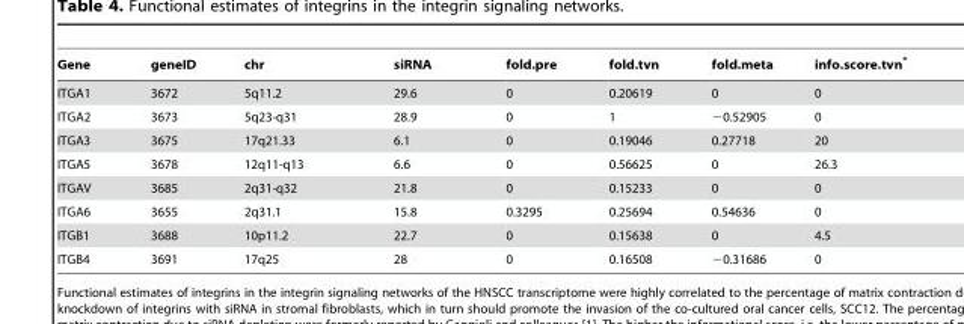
<table><thead><tr><td>Gene</td><td>geneID</td><td>chr</td><td>siRNA</td><td>fold.pre</td><td>fold.tvn</td><td>fold.meta</td><td>info.score.tvn*</td></tr></thead><tbody><tr><td>ITGA1</td><td>3672</td><td>5q11.2</td><td>29.6</td><td>0</td><td>0.20619</td><td>0</td><td>0</td></tr><tr><td>ITGA2</td><td>3673</td><td>5q23-q31</td><td>28.9</td><td>0</td><td>1</td><td>−0.52905</td><td>0</td></tr><tr><td>ITGA3</td><td>3675</td><td>17q21.33</td><td>6.1</td><td>0</td><td>0.19046</td><td>0.27718</td><td>20</td></tr><tr><td>ITGA5</td><td>3678</td><td>12q11-q13</td><td>6.6</td><td>0</td><td>0.56625</td><td>0</td><td>26.3</td></tr><tr><td>ITGAV</td><td>3685</td><td>2q31-q32</td><td>21.8</td><td>0</td><td>0.15233</td><td>0</td><td>0</td></tr><tr><td>ITGA6</td><td>3655</td><td>2q31.1</td><td>15.8</td><td>0.3295</td><td>0.25694</td><td>0.54636</td><td>0</td></tr><tr><td>ITGB1</td><td>3688</td><td>10p11.2</td><td>22.7</td><td>0</td><td>0.15638</td><td>0</td><td>4.5</td></tr><tr><td>ITGB4</td><td>3691</td><td>17q25</td><td>28</td><td>0</td><td>0.16508</td><td>−0.31686</td><td>0</td></tr></tbody></table>